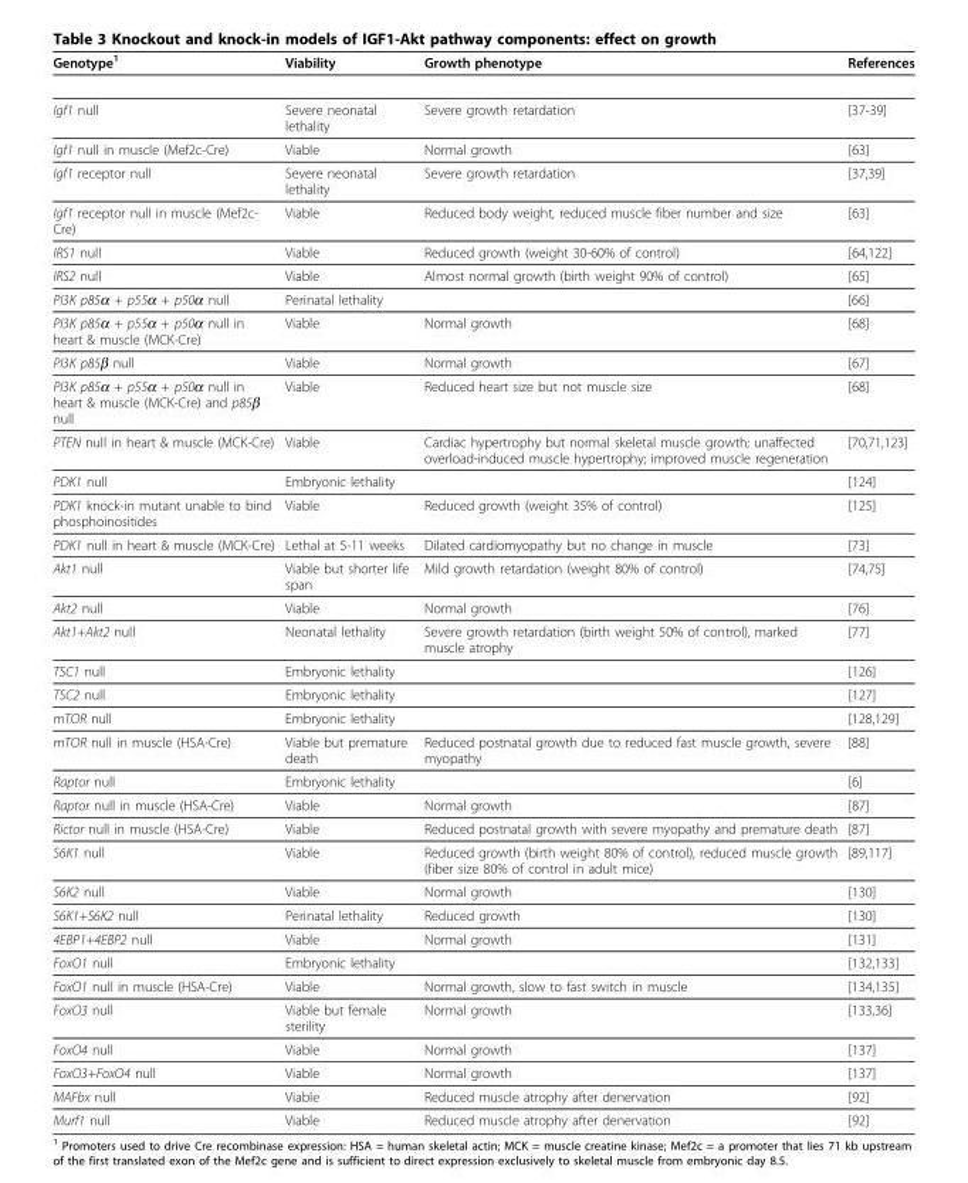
<table><thead><tr><td>Genotype<sup>1</sup></td><td>Viability</td><td>Growth phenotype</td><td>References</td></tr></thead><tbody><tr><td>Igf1 null</td><td>Severe neonatal lethality</td><td>Severe growth retardation</td><td>[37-39]</td></tr><tr><td>Igf1 null in muscle (Mef2c-Cre)</td><td>Viable</td><td>Normal growth</td><td>[63]</td></tr><tr><td>Igf1 receptor null</td><td>Severe neonatal lethality</td><td>Severe growth retardation</td><td>[37,39]</td></tr><tr><td>Igf1 receptor null in muscle (Mef2c- Cre)</td><td>Viable</td><td>Reduced body weight, reduced muscle fiber number and size</td><td>[63]</td></tr><tr><td>IRS1 null</td><td>Viable</td><td>Reduced growth (weight 30-60% of control)</td><td>[64,122]</td></tr><tr><td>IRS2 null</td><td>Viable</td><td>Almost normal growth (birth weight 90% of control)</td><td>[65]</td></tr><tr><td>PI3K p85α + p55α + p50α null</td><td>Perinatal lethality</td><td></td><td>[66]</td></tr><tr><td>PI3K p85α + p55α + p50α null in heart &amp; muscle (MCK-Cre)</td><td>Viable</td><td>Normal growth</td><td>[68]</td></tr><tr><td>PI3K p85β null</td><td>Viable</td><td>Normal growth</td><td>[67]</td></tr><tr><td>PI3K p85α + p55α + p50α null in heart &amp; muscle (MCK-Cre) and p85β null</td><td>Viable</td><td>Reduced heart size but not muscle size</td><td>[68]</td></tr><tr><td>PTEN null in heart &amp; muscle (MCK-Cre)</td><td>Viable</td><td>Cardiac hypertrophy but normal skeletal muscle growth; unaffected overload-induced muscle hypertrophy; improved muscle regeneration</td><td>[70,71,123]</td></tr><tr><td>PDK1 null</td><td>Embryonic lethality</td><td></td><td>[124]</td></tr><tr><td>PDK1 knock-in mutant unable to bind phosphoinositides</td><td>Viable</td><td>Reduced growth (weight 35% of control)</td><td>[125]</td></tr><tr><td>PDK1 null in heart &amp; muscle (MCK-Cre)</td><td>Lethal at 5-11 weeks</td><td>Dilated cardiomyopathy but no change in muscle</td><td>[73]</td></tr><tr><td>Akt1 null</td><td>Viable but shorter life span</td><td>Mild growth retardation (weight 80% of control)</td><td>[74,75]</td></tr><tr><td>Akt2 null</td><td>Viable</td><td>Normal growth</td><td>[76]</td></tr><tr><td>Akt1+Akt2 null</td><td>Neonatal lethality</td><td>Severe growth retardation (birth weight 50% of control), marked muscle atrophy</td><td>[77]</td></tr><tr><td>TSC1 null</td><td>Embryonic lethality</td><td></td><td>[126]</td></tr><tr><td>TSC2 null</td><td>Embryonic lethality</td><td></td><td>[127]</td></tr><tr><td>mTOR null</td><td>Embryonic lethality</td><td></td><td>[128,129]</td></tr><tr><td>mTOR null in muscle (HSA-Cre)</td><td>Viable but premature death</td><td>Reduced postnatal growth due to reduced fast muscle growth, severe myopathy</td><td>[88]</td></tr><tr><td>Raptor null</td><td>Embryonic lethality</td><td></td><td>[6]</td></tr><tr><td>Raptor null in muscle (HSA-Cre)</td><td>Viable</td><td>Normal growth</td><td>[87]</td></tr><tr><td>Rictor null in muscle (HSA-Cre)</td><td>Viable</td><td>Reduced postnatal growth with severe myopathy and premature death</td><td>[87]</td></tr><tr><td>S6K1 null</td><td>Viable</td><td>Reduced growth (birth weight 80% of control), reduced muscle growth (fiber size 80% of control in adult mice)</td><td>[89,117]</td></tr><tr><td>S6K2 null</td><td>Viable</td><td>Normal growth</td><td>[130]</td></tr><tr><td>S6K1+S6K2 null</td><td>Perinatal lethality</td><td>Reduced growth</td><td>[130]</td></tr><tr><td>4EBP1+4EBP2 null</td><td>Viable</td><td>Normal growth</td><td>[131]</td></tr><tr><td>FoxO1 null</td><td>Embryonic lethality</td><td></td><td>[132,133]</td></tr><tr><td>FoxO1 null in muscle (HSA-Cre)</td><td>Viable</td><td>Normal growth, slow to fast switch in muscle</td><td>[134,135]</td></tr><tr><td>FoxO3 null</td><td>Viable but female sterility</td><td>Normal growth</td><td>[133,36]</td></tr><tr><td>FoxO4 null</td><td>Viable</td><td>Normal growth</td><td>[137]</td></tr><tr><td>FoxO3+FoxO4 null</td><td>Viable</td><td>Normal growth</td><td>[137]</td></tr><tr><td>MAFbx null</td><td>Viable</td><td>Reduced muscle atrophy after denervation</td><td>[92]</td></tr><tr><td>Murf1 null</td><td>Viable</td><td>Reduced muscle atrophy after denervation</td><td>[92]</td></tr></tbody></table>